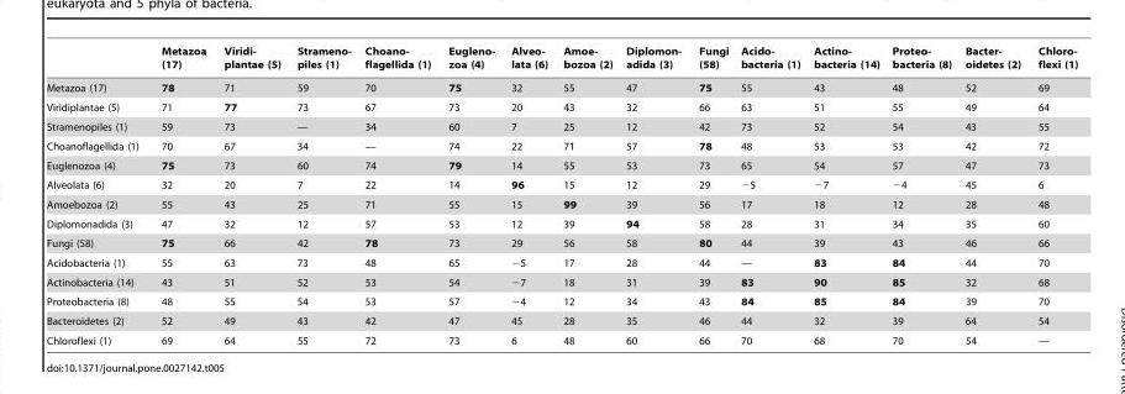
<table><thead><tr><td></td><td>Metazoa (17)</td><td>Viridi- plantae (5)</td><td>Strameno- piles (1)</td><td>Choano- flagellida (1)</td><td>Eugleno- zoa (4)</td><td>Alveo- lata (6)</td><td>Amoe- bozoa (2)</td><td>Diplomon- adida (3)</td><td>Fungi (58)</td><td>Acido- bacteria (1)</td><td>Actino- bacteria (14)</td><td>Proteo- bacteria (8)</td><td>Bacter- oidetes (2)</td><td>Chloro- flexi (1)</td></tr></thead><tbody><tr><td>Metazoa (17)</td><td>78</td><td>71</td><td>59</td><td>70</td><td>75</td><td>32</td><td>55</td><td>47</td><td>75</td><td>55</td><td>43</td><td>48</td><td>52</td><td>69</td></tr><tr><td>Viridiplantae (5)</td><td>71</td><td>77</td><td>73</td><td>67</td><td>73</td><td>20</td><td>43</td><td>32</td><td>66</td><td>63</td><td>51</td><td>55</td><td>49</td><td>64</td></tr><tr><td>Stramenopiles (1)</td><td>59</td><td>73</td><td>—</td><td>34</td><td>60</td><td>7</td><td>25</td><td>12</td><td>42</td><td>73</td><td>52</td><td>54</td><td>43</td><td>55</td></tr><tr><td>Choanoflagellida (1)</td><td>70</td><td>67</td><td>34</td><td>—</td><td>74</td><td>22</td><td>71</td><td>57</td><td>78</td><td>48</td><td>53</td><td>53</td><td>42</td><td>72</td></tr><tr><td>Euglenozoa (4)</td><td>75</td><td>73</td><td>60</td><td>74</td><td>79</td><td>14</td><td>55</td><td>53</td><td>73</td><td>65</td><td>54</td><td>57</td><td>47</td><td>73</td></tr><tr><td>Alveolata (6)</td><td>32</td><td>20</td><td>7</td><td>22</td><td>14</td><td>96</td><td>15</td><td>12</td><td>29</td><td>−5</td><td>−7</td><td>−4</td><td>45</td><td>6</td></tr><tr><td>Amoebozoa (2)</td><td>55</td><td>43</td><td>25</td><td>71</td><td>55</td><td>15</td><td>99</td><td>39</td><td>56</td><td>17</td><td>18</td><td>12</td><td>28</td><td>48</td></tr><tr><td>Diplomonadida (3)</td><td>47</td><td>32</td><td>12</td><td>57</td><td>53</td><td>12</td><td>39</td><td>94</td><td>58</td><td>28</td><td>31</td><td>34</td><td>35</td><td>60</td></tr><tr><td>Fungi (58)</td><td>75</td><td>66</td><td>42</td><td>78</td><td>73</td><td>29</td><td>56</td><td>58</td><td>80</td><td>44</td><td>39</td><td>43</td><td>46</td><td>66</td></tr><tr><td>Acidobacteria (1)</td><td>55</td><td>63</td><td>73</td><td>48</td><td>65</td><td>−5</td><td>17</td><td>28</td><td>44</td><td>—</td><td>83</td><td>84</td><td>44</td><td>70</td></tr><tr><td>Actinobacteria (14)</td><td>43</td><td>51</td><td>52</td><td>53</td><td>54</td><td>−7</td><td>18</td><td>31</td><td>39</td><td>83</td><td>90</td><td>85</td><td>32</td><td>68</td></tr><tr><td>Proteobacteria (8)</td><td>48</td><td>55</td><td>54</td><td>53</td><td>57</td><td>−4</td><td>12</td><td>34</td><td>43</td><td>84</td><td>85</td><td>84</td><td>39</td><td>70</td></tr><tr><td>Bacteroidetes (2)</td><td>52</td><td>49</td><td>43</td><td>42</td><td>47</td><td>45</td><td>28</td><td>35</td><td>46</td><td>44</td><td>32</td><td>39</td><td>64</td><td>54</td></tr><tr><td>Chloroflexi (1)</td><td>69</td><td>64</td><td>55</td><td>72</td><td>73</td><td>6</td><td>48</td><td>60</td><td>66</td><td>70</td><td>68</td><td>70</td><td>54</td><td>—</td></tr></tbody></table>